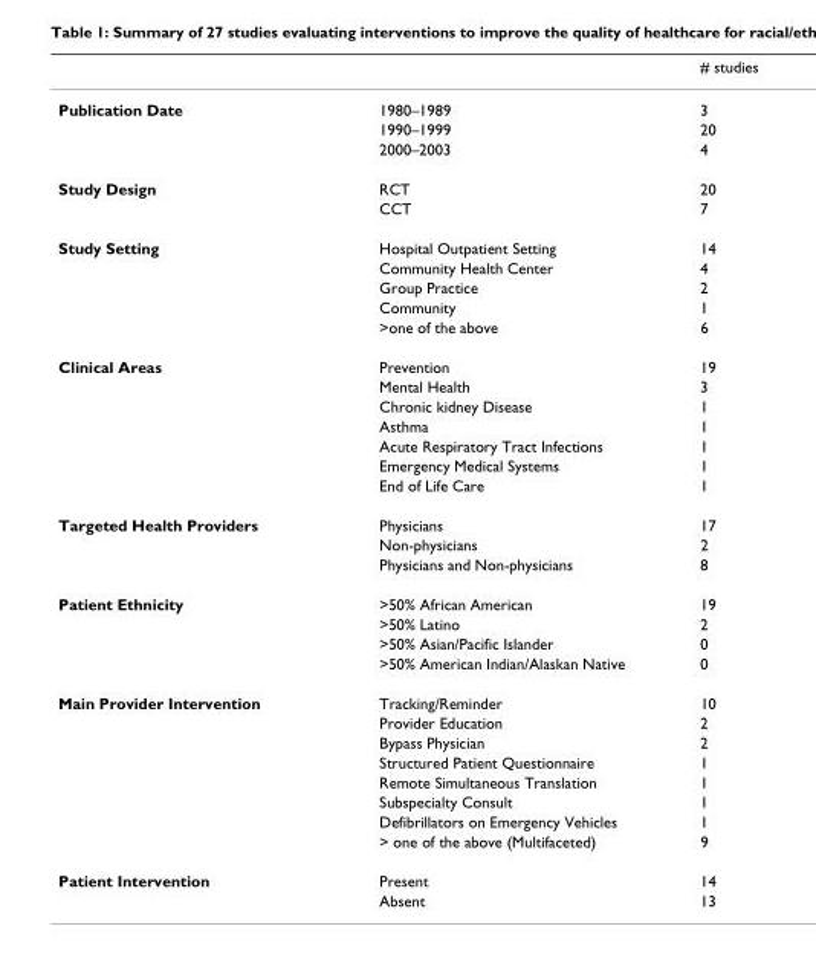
<table><thead><tr><td></td><td></td><td># studies</td></tr></thead><tbody><tr><td rowspan="3">Publication Date</td><td>1980–1989</td><td>3</td></tr><tr><td>1990–1999</td><td>20</td></tr><tr><td>2000–2003</td><td>4</td></tr><tr><td rowspan="2">Study Design</td><td>RCT</td><td>20</td></tr><tr><td>CCT</td><td>7</td></tr><tr><td rowspan="5">Study Setting</td><td>Hospital Outpatient Setting</td><td>14</td></tr><tr><td>Community Health Center</td><td>4</td></tr><tr><td>Group Practice</td><td>2</td></tr><tr><td>Community</td><td>1</td></tr><tr><td>&gt;one of the above</td><td>6</td></tr><tr><td rowspan="7">Clinical Areas</td><td>Prevention</td><td>19</td></tr><tr><td>Mental Health</td><td>3</td></tr><tr><td>Chronic kidney Disease</td><td>1</td></tr><tr><td>Asthma</td><td>1</td></tr><tr><td>Acute Respiratory Tract Infections</td><td>1</td></tr><tr><td>Emergency Medical Systems</td><td>1</td></tr><tr><td>End of Life Care</td><td>1</td></tr><tr><td rowspan="3">Targeted Health Providers</td><td>Physicians</td><td>17</td></tr><tr><td>Non-physicians</td><td>2</td></tr><tr><td>Physicians and Non-physicians</td><td>8</td></tr><tr><td rowspan="4">Patient Ethnicity</td><td>&gt;50% African American</td><td>19</td></tr><tr><td>&gt;50% Latino</td><td>2</td></tr><tr><td>&gt;50% Asian/Pacific Islander</td><td>0</td></tr><tr><td>&gt;50% American Indian/Alaskan Native</td><td>0</td></tr><tr><td rowspan="8">Main Provider Intervention</td><td>Tracking/Reminder</td><td>10</td></tr><tr><td>Provider Education</td><td>2</td></tr><tr><td>Bypass Physician</td><td>2</td></tr><tr><td>Structured Patient Questionnaire</td><td>1</td></tr><tr><td>Remote Simultaneous Translation</td><td>1</td></tr><tr><td>Subspecialty Consult</td><td>1</td></tr><tr><td>Defibrillators on Emergency Vehicles</td><td>1</td></tr><tr><td>&gt; one of the above (Multifaceted)</td><td>9</td></tr><tr><td rowspan="2">Patient Intervention</td><td>Present</td><td>14</td></tr><tr><td>Absent</td><td>13</td></tr></tbody></table>